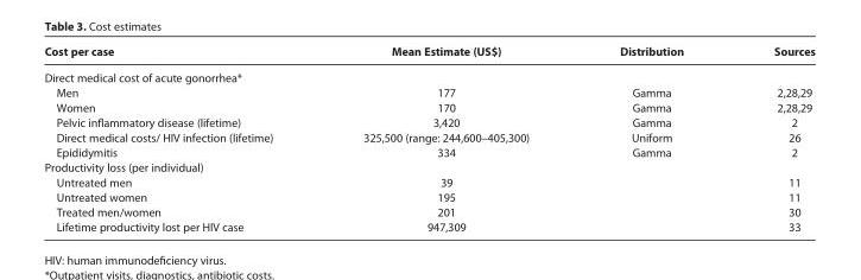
<table><thead><tr><td>Cost per case</td><td>Mean Estimate (US$)</td><td>Distribution</td><td>Sources</td></tr></thead><tbody><tr><td colspan="4">Direct medical cost of acute gonorrhea*</td></tr><tr><td>Men</td><td>177</td><td>Gamma</td><td>2,28,29</td></tr><tr><td>Women</td><td>170</td><td>Gamma</td><td>2,28,29</td></tr><tr><td>Pelvic inflammatory disease (lifetime)</td><td>3,420</td><td>Gamma</td><td>2</td></tr><tr><td>Direct medical costs/ HIV infection (lifetime)</td><td>325,500 (range: 244,600–405,300)</td><td>Uniform</td><td>26</td></tr><tr><td>Epididymitis</td><td>334</td><td>Gamma</td><td>2</td></tr><tr><td colspan="4">Productivity loss (per individual)</td></tr><tr><td>Untreated men</td><td>39</td><td></td><td>11</td></tr><tr><td>Untreated women</td><td>195</td><td></td><td>11</td></tr><tr><td>Treated men/women</td><td>201</td><td></td><td>30</td></tr><tr><td>Lifetime productivity lost per HIV case</td><td>947,309</td><td></td><td>33</td></tr></tbody></table>